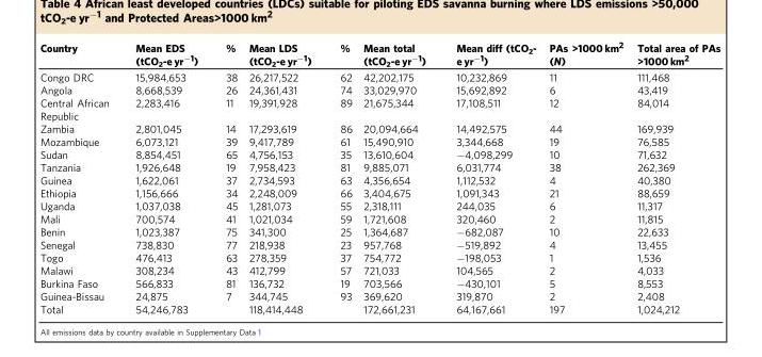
<table><thead><tr><td>Country</td><td>Mean EDS (tCO<sub>2</sub>-e yr<sup>−1</sup>)</td><td>%</td><td>Mean LDS (tCO<sub>2</sub>-e yr<sup>−1</sup>)</td><td>%</td><td>Mean total (tCO<sub>2</sub>-e yr<sup>−1</sup>)</td><td>Mean diff (tCO<sub>2</sub>- e yr<sup>−1</sup>)</td><td>PAs &gt;1000 km<sup>2</sup> (N)</td><td>Total area of PAs &gt;1000 km<sup>2</sup></td></tr></thead><tbody><tr><td>Congo DRC</td><td>15,984,653</td><td>38</td><td>26,217,522</td><td>62</td><td>42,202,175</td><td>10,232,869</td><td>11</td><td>111,468</td></tr><tr><td>Angola</td><td>8,668,539</td><td>26</td><td>24,361,431</td><td>74</td><td>33,029,970</td><td>15,692,892</td><td>6</td><td>43,419</td></tr><tr><td>Central African Republic</td><td>2,283,416</td><td>11</td><td>19,391,928</td><td>89</td><td>21,675,344</td><td>17,108,511</td><td>12</td><td>84,014</td></tr><tr><td>Zambia</td><td>2,801,045</td><td>14</td><td>17,293,619</td><td>86</td><td>20,094,664</td><td>14,492,575</td><td>44</td><td>169,939</td></tr><tr><td>Mozambique</td><td>6,073,121</td><td>39</td><td>9,417,789</td><td>61</td><td>15,490,910</td><td>3,344,668</td><td>19</td><td>76,585</td></tr><tr><td>Sudan</td><td>8,854,451</td><td>65</td><td>4,756,153</td><td>35</td><td>13,610,604</td><td>−4,098,299</td><td>10</td><td>71,632</td></tr><tr><td>Tanzania</td><td>1,926,648</td><td>19</td><td>7,958,423</td><td>81</td><td>9,885,071</td><td>6,031,774</td><td>38</td><td>262,369</td></tr><tr><td>Guinea</td><td>1,622,061</td><td>37</td><td>2,734,593</td><td>63</td><td>4,356,654</td><td>1,112,532</td><td>4</td><td>40,380</td></tr><tr><td>Ethiopia</td><td>1,156,666</td><td>34</td><td>2,248,009</td><td>66</td><td>3,404,675</td><td>1,091,343</td><td>21</td><td>88,659</td></tr><tr><td>Uganda</td><td>1,037,038</td><td>45</td><td>1,281,073</td><td>55</td><td>2,318,111</td><td>244,035</td><td>6</td><td>11,317</td></tr><tr><td>Mali</td><td>700,574</td><td>41</td><td>1,021,034</td><td>59</td><td>1,721,608</td><td>320,460</td><td>2</td><td>11,815</td></tr><tr><td>Benin</td><td>1,023,387</td><td>75</td><td>341,300</td><td>25</td><td>1,364,687</td><td>−682,087</td><td>10</td><td>22,633</td></tr><tr><td>Senegal</td><td>738,830</td><td>77</td><td>218,938</td><td>23</td><td>957,768</td><td>−519,892</td><td>4</td><td>13,455</td></tr><tr><td>Togo</td><td>476,413</td><td>63</td><td>278,359</td><td>37</td><td>754,772</td><td>−198,053</td><td>1</td><td>1,536</td></tr><tr><td>Malawi</td><td>308,234</td><td>43</td><td>412,799</td><td>57</td><td>721,033</td><td>104,565</td><td>2</td><td>4,033</td></tr><tr><td>Burkina Faso</td><td>566,833</td><td>81</td><td>136,732</td><td>19</td><td>703,566</td><td>−430,101</td><td>5</td><td>8,553</td></tr><tr><td>Guinea-Bissau</td><td>24,875</td><td>7</td><td>344,745</td><td>93</td><td>369,620</td><td>319,870</td><td>2</td><td>2,408</td></tr><tr><td>Total</td><td>54,246,783</td><td></td><td>118,414,448</td><td></td><td>172,661,231</td><td>64,167,661</td><td>197</td><td>1,024,212</td></tr></tbody></table>